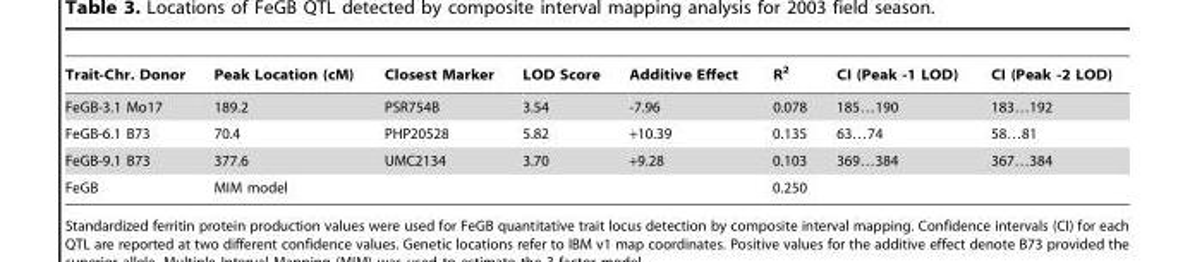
<table><thead><tr><td>Trait-Chr. Donor</td><td>Peak Location (cM)</td><td>Closest Marker</td><td>LOD Score</td><td>Additive Effect</td><td>R<sup>2</sup></td><td>CI (Peak -1 LOD)</td><td>CI (Peak -2 LOD)</td></tr></thead><tbody><tr><td>FeGB-3.1 Mo17</td><td>189.2</td><td>PSR754B</td><td>3.54</td><td>-7.96</td><td>0.078</td><td>185…190</td><td>183…192</td></tr><tr><td>FeGB-6.1 B73</td><td>70.4</td><td>PHP20528</td><td>5.82</td><td>+10.39</td><td>0.135</td><td>63…74</td><td>58…81</td></tr><tr><td>FeGB-9.1 B73</td><td>377.6</td><td>UMC2134</td><td>3.70</td><td>+9.28</td><td>0.103</td><td>369…384</td><td>367…384</td></tr><tr><td>FeGB</td><td>MIM model</td><td></td><td></td><td></td><td>0.250</td><td></td><td></td></tr></tbody></table>